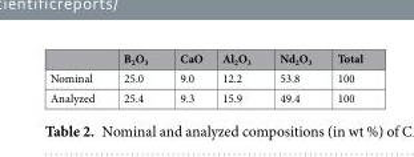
<table><thead><tr><td></td><td>B<sub>2</sub>O<sub>3</sub></td><td>CaO</td><td>Al<sub>2</sub>O<sub>3</sub></td><td>Nd<sub>2</sub>O<sub>3</sub></td><td>Total</td></tr></thead><tbody><tr><td>Nominal</td><td>25.0</td><td>9.0</td><td>12.2</td><td>53.8</td><td>100</td></tr><tr><td>Analyzed</td><td>25.4</td><td>9.3</td><td>15.9</td><td>49.4</td><td>100</td></tr></tbody></table>